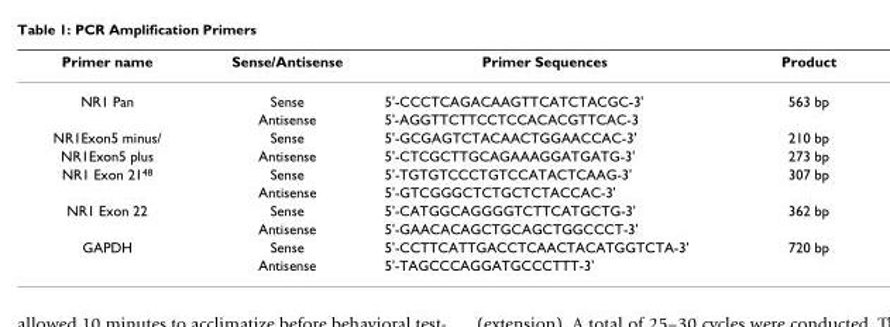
<table><thead><tr><td>Primer name</td><td>Sense/Antisense</td><td>Primer Sequences</td><td>Product</td></tr></thead><tbody><tr><td rowspan="2">NR1 Pan</td><td>Sense</td><td>5&#x27;-CCCTCAGACAAGTTCATCTACGC-3&#x27;</td><td>563 bp</td></tr><tr><td>Antisense</td><td>5&#x27;-AGGTTCTTCCTCCACACGTTCAC-3</td><td></td></tr><tr><td>NR1Exon5 minus/</td><td>Sense</td><td>5&#x27;-GCGAGTCTACAACTGGAACCAC-3&#x27;</td><td>210 bp</td></tr><tr><td>NR1Exon5 plus</td><td>Antisense</td><td>5&#x27;-CTCGCTTGCAGAAAGGATGATG-3&#x27;</td><td>273 bp</td></tr><tr><td rowspan="2">NR1 Exon 21<sup>48</sup></td><td>Sense</td><td>5&#x27;-TGTGTCCCTGTCCATACTCAAG-3&#x27;</td><td>307 bp</td></tr><tr><td>Antisense</td><td>5&#x27;-GTCGGGCTCTGCTCTACCAC-3&#x27;</td><td></td></tr><tr><td rowspan="2">NR1 Exon 22</td><td>Sense</td><td>5&#x27;-CATGGCAGGGGTCTTCATGCTG-3&#x27;</td><td>362 bp</td></tr><tr><td>Antisense</td><td>5&#x27;-GAACACAGCTGCAGCTGGCCCT-3&#x27;</td><td></td></tr><tr><td rowspan="2">GAPDH</td><td>Sense</td><td>5&#x27;-CCTTCATTGACCTCAACTACATGGTCTA-3&#x27;</td><td>720 bp</td></tr><tr><td>Antisense</td><td>5&#x27;-TAGCCCAGGATGCCCTTT-3&#x27;</td><td></td></tr></tbody></table>